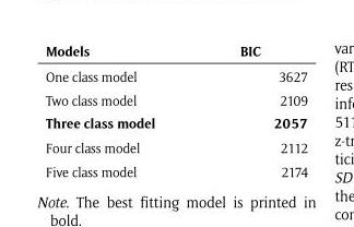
<table><thead><tr><td>Models</td><td>BIC</td></tr></thead><tbody><tr><td>One class model</td><td>3627</td></tr><tr><td>Two class model</td><td>2109</td></tr><tr><td>Three class model</td><td>2057</td></tr><tr><td>Four class model</td><td>2112</td></tr><tr><td>Five class model</td><td>2174</td></tr></tbody></table>